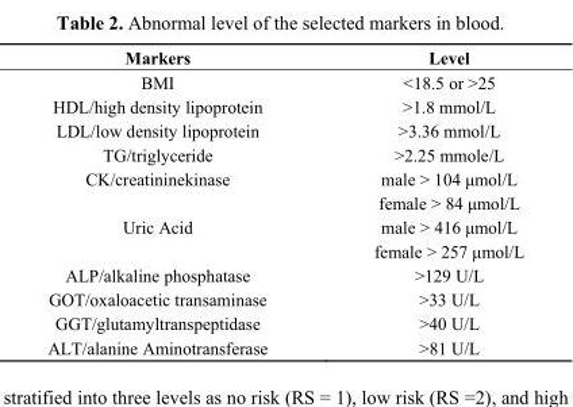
<table><thead><tr><td>Markers</td><td>Level</td></tr></thead><tbody><tr><td>BMI</td><td>&lt;18.5 or &gt;25</td></tr><tr><td>HDL/high density lipoprotein</td><td>&gt;1.8 mmol/L</td></tr><tr><td>LDL/low density lipoprotein</td><td>&gt;3.36 mmol/L</td></tr><tr><td>TG/triglyceride</td><td>&gt;2.25 mmole/L</td></tr><tr><td rowspan="2">CK/creatininekinase</td><td>male &gt; 104 μmol/L</td></tr><tr><td>female &gt; 84 μmol/L</td></tr><tr><td rowspan="2">Uric Acid</td><td>male &gt; 416 μmol/L</td></tr><tr><td>female &gt; 257 μmol/L</td></tr><tr><td>ALP/alkaline phosphatase</td><td>&gt;129 U/L</td></tr><tr><td>GOT/oxaloacetic transaminase</td><td>&gt;33 U/L</td></tr><tr><td>GGT/glutamyltranspeptidase</td><td>&gt;40 U/L</td></tr><tr><td>ALT/alanine Aminotransferase</td><td>&gt;81 U/L</td></tr></tbody></table>